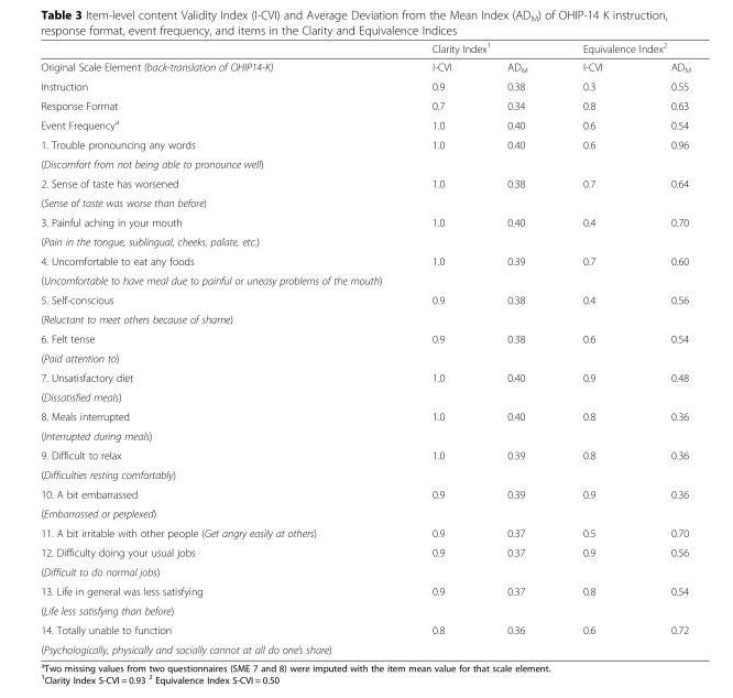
<table><thead><tr><td rowspan="2">Original Scale Element (back-translation of OHIP14-K)</td><td colspan="2">Clarity Index<sup>1</sup></td><td colspan="2">Equivalence Index<sup>2</sup></td></tr><tr><td>I-CVI</td><td>AD<sub>M</sub></td><td>I-CVI</td><td>AD<sub>M</sub></td></tr></thead><tbody><tr><td>Instruction</td><td>0.9</td><td>0.38</td><td>0.3</td><td>0.55</td></tr><tr><td>Response Format</td><td>0.7</td><td>0.34</td><td>0.8</td><td>0.63</td></tr><tr><td>Event Frequency<sup>a</sup></td><td>1.0</td><td>0.40</td><td>0.6</td><td>0.54</td></tr><tr><td>1. Trouble pronouncing any words</td><td rowspan="2">1.0</td><td rowspan="2">0.40</td><td rowspan="2">0.6</td><td rowspan="2">0.96</td></tr><tr><td>(Discomfort from not being able to pronounce well)</td></tr><tr><td>2. Sense of taste has worsened</td><td rowspan="2">1.0</td><td rowspan="2">0.38</td><td rowspan="2">0.7</td><td rowspan="2">0.64</td></tr><tr><td>(Sense of taste was worse than before)</td></tr><tr><td>3. Painful aching in your mouth</td><td rowspan="2">1.0</td><td rowspan="2">0.40</td><td rowspan="2">0.4</td><td rowspan="2">0.70</td></tr><tr><td>(Pain in the tongue, sublingual, cheeks, palate, etc.)</td></tr><tr><td>4. Uncomfortable to eat any foods</td><td rowspan="2">1.0</td><td rowspan="2">0.39</td><td rowspan="2">0.7</td><td rowspan="2">0.60</td></tr><tr><td>(Uncomfortable to have meal due to painful or uneasy problems of the mouth)</td></tr><tr><td>5. Self-conscious</td><td rowspan="2">0.9</td><td rowspan="2">0.38</td><td rowspan="2">0.4</td><td rowspan="2">0.56</td></tr><tr><td>(Reluctant to meet others because of shame)</td></tr><tr><td>6. Felt tense</td><td rowspan="2">0.9</td><td rowspan="2">0.38</td><td rowspan="2">0.6</td><td rowspan="2">0.54</td></tr><tr><td>(Paid attention to)</td></tr><tr><td>7. Unsatisfactory diet</td><td rowspan="2">1.0</td><td rowspan="2">0.40</td><td rowspan="2">0.9</td><td rowspan="2">0.48</td></tr><tr><td>(Dissatisfied meals)</td></tr><tr><td>8. Meals interrupted</td><td rowspan="2">1.0</td><td rowspan="2">0.40</td><td rowspan="2">0.8</td><td rowspan="2">0.36</td></tr><tr><td>(Interrupted during meals)</td></tr><tr><td>9. Difficult to relax</td><td rowspan="2">1.0</td><td rowspan="2">0.39</td><td rowspan="2">0.8</td><td rowspan="2">0.36</td></tr><tr><td>(Difficulties resting comfortably)</td></tr><tr><td>10. A bit embarrassed</td><td rowspan="2">0.9</td><td rowspan="2">0.39</td><td rowspan="2">0.9</td><td rowspan="2">0.36</td></tr><tr><td>(Embarrassed or perplexed)</td></tr><tr><td>11. A bit irritable with other people (Get angry easily at others)</td><td>0.9</td><td>0.37</td><td>0.5</td><td>0.70</td></tr><tr><td>12. Difficulty doing your usual jobs</td><td rowspan="2">0.9</td><td rowspan="2">0.37</td><td rowspan="2">0.9</td><td rowspan="2">0.56</td></tr><tr><td>(Difficult to do normal jobs)</td></tr><tr><td>13. Life in general was less satisfying</td><td rowspan="2">0.9</td><td rowspan="2">0.37</td><td rowspan="2">0.8</td><td rowspan="2">0.54</td></tr><tr><td>(Life less satisfying than before)</td></tr><tr><td>14. Totally unable to function</td><td rowspan="2">0.8</td><td rowspan="2">0.36</td><td rowspan="2">0.6</td><td rowspan="2">0.72</td></tr><tr><td>(Psychologically, physically and socially cannot at all do one’s share)</td></tr></tbody></table>